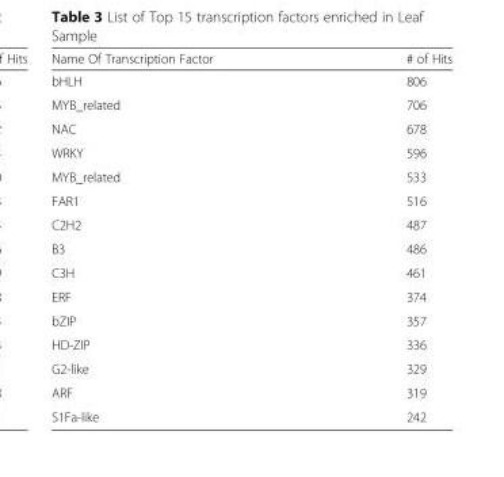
<table><thead><tr><td>Name Of Transcription Factor</td><td># of Hits</td></tr></thead><tbody><tr><td>bHLH</td><td>806</td></tr><tr><td>MYB_related</td><td>706</td></tr><tr><td>NAC</td><td>678</td></tr><tr><td>WRKY</td><td>596</td></tr><tr><td>MYB_related</td><td>533</td></tr><tr><td>FAR1</td><td>516</td></tr><tr><td>C2H2</td><td>487</td></tr><tr><td>B3</td><td>486</td></tr><tr><td>C3H</td><td>461</td></tr><tr><td>ERF</td><td>374</td></tr><tr><td>bZIP</td><td>357</td></tr><tr><td>HD-ZIP</td><td>336</td></tr><tr><td>G2-like</td><td>329</td></tr><tr><td>ARF</td><td>319</td></tr><tr><td>S1Fa-like</td><td>242</td></tr></tbody></table>